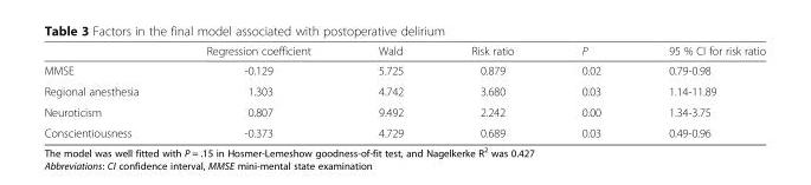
<table><thead><tr><td></td><td>Regression coefficient</td><td>Wald</td><td>Risk ratio</td><td>P</td><td>95 % CI for risk ratio</td></tr></thead><tbody><tr><td>MMSE</td><td>-0.129</td><td>5.725</td><td>0.879</td><td>0.02</td><td>0.79-0.98</td></tr><tr><td>Regional anesthesia</td><td>1.303</td><td>4.742</td><td>3.680</td><td>0.03</td><td>1.14-11.89</td></tr><tr><td>Neuroticism</td><td>0.807</td><td>9.492</td><td>2.242</td><td>0.00</td><td>1.34-3.75</td></tr><tr><td>Conscientiousness</td><td>-0.373</td><td>4.729</td><td>0.689</td><td>0.03</td><td>0.49-0.96</td></tr></tbody></table>